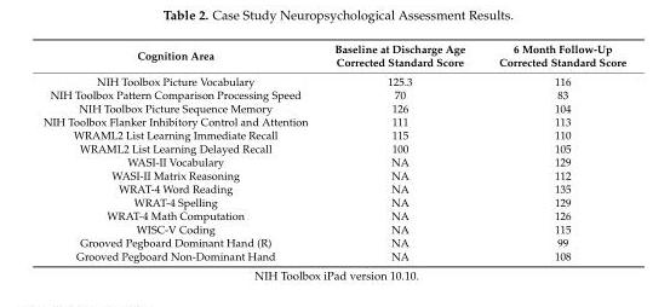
<table><thead><tr><td>Cognition Area</td><td>Baseline at Discharge Age Corrected Standard Score</td><td>6 Month Follow-Up Corrected Standard Score</td></tr></thead><tbody><tr><td>NIH Toolbox Picture Vocabulary</td><td>125.3</td><td>116</td></tr><tr><td>NIH Toolbox Pattern Comparison Processing Speed</td><td>70</td><td>83</td></tr><tr><td>NIH Toolbox Picture Sequence Memory</td><td>126</td><td>104</td></tr><tr><td>NIH Toolbox Flanker Inhibitory Control and Attention</td><td>111</td><td>113</td></tr><tr><td>WRAML2 List Learning Immediate Recall</td><td>115</td><td>110</td></tr><tr><td>WRAML2 List Learning Delayed Recall</td><td>100</td><td>105</td></tr><tr><td>WASI-II Vocabulary</td><td>NA</td><td>129</td></tr><tr><td>WASI-II Matrix Reasoning</td><td>NA</td><td>112</td></tr><tr><td>WRAT-4 Word Reading</td><td>NA</td><td>135</td></tr><tr><td>WRAT-4 Spelling</td><td>NA</td><td>129</td></tr><tr><td>WRAT-4 Math Computation</td><td>NA</td><td>126</td></tr><tr><td>WISC-V Coding</td><td>NA</td><td>115</td></tr><tr><td>Grooved Pegboard Dominant Hand (R)</td><td>NA</td><td>99</td></tr><tr><td>Grooved Pegboard Non-Dominant Hand</td><td>NA</td><td>108</td></tr></tbody></table>